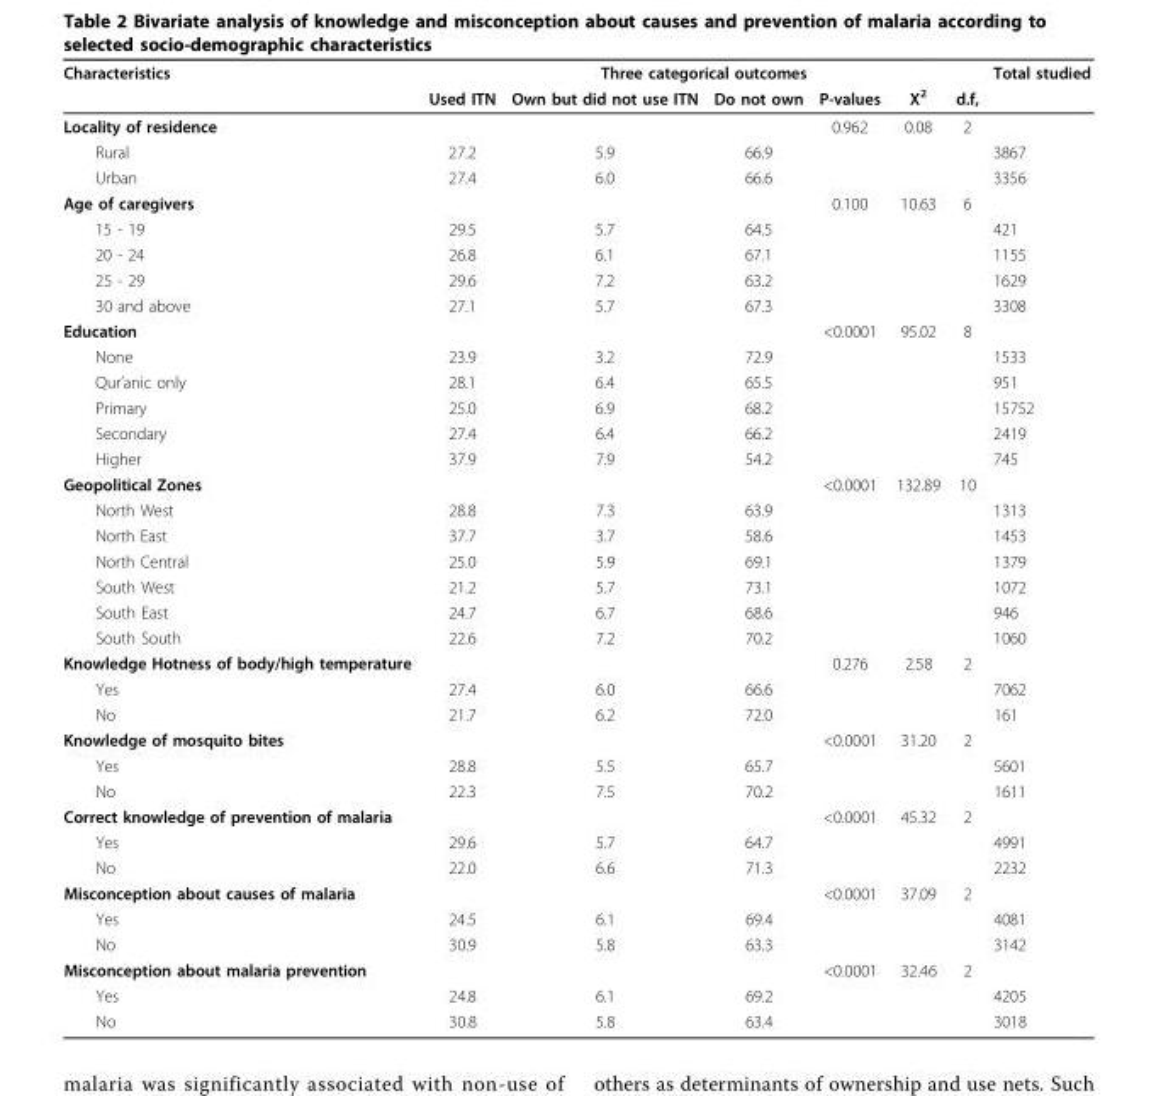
<table><thead><tr><td rowspan="2">Characteristics</td><td colspan="6">Three categorical outcomes</td><td rowspan="2">Total studied</td></tr><tr><td>Used ITN</td><td>Own but did not use ITN</td><td>Do not own</td><td>P-values</td><td>X<sup>2</sup></td><td>d.f,</td></tr></thead><tbody><tr><td>Locality of residence</td><td></td><td></td><td></td><td>0.962</td><td>0.08</td><td>2</td><td></td></tr><tr><td>Rural</td><td>27.2</td><td>5.9</td><td>66.9</td><td></td><td></td><td></td><td>3867</td></tr><tr><td>Urban</td><td>27.4</td><td>6.0</td><td>66.6</td><td></td><td></td><td></td><td>3356</td></tr><tr><td>Age of caregivers</td><td></td><td></td><td></td><td>0.100</td><td>10.63</td><td>6</td><td></td></tr><tr><td>15 - 19</td><td>29.5</td><td>5.7</td><td>64.5</td><td></td><td></td><td></td><td>421</td></tr><tr><td>20 - 24</td><td>26.8</td><td>6.1</td><td>67.1</td><td></td><td></td><td></td><td>1155</td></tr><tr><td>25 - 29</td><td>29.6</td><td>7.2</td><td>63.2</td><td></td><td></td><td></td><td>1629</td></tr><tr><td>30 and above</td><td>27.1</td><td>5.7</td><td>67.3</td><td></td><td></td><td></td><td>3308</td></tr><tr><td>Education</td><td></td><td></td><td></td><td>&lt;0.0001</td><td>95.02</td><td>8</td><td></td></tr><tr><td>None</td><td>23.9</td><td>3.2</td><td>72.9</td><td></td><td></td><td></td><td>1533</td></tr><tr><td>Qur’anic only</td><td>28.1</td><td>6.4</td><td>65.5</td><td></td><td></td><td></td><td>951</td></tr><tr><td>Primary</td><td>25.0</td><td>6.9</td><td>68.2</td><td></td><td></td><td></td><td>15752</td></tr><tr><td>Secondary</td><td>27.4</td><td>6.4</td><td>66.2</td><td></td><td></td><td></td><td>2419</td></tr><tr><td>Higher</td><td>37.9</td><td>7.9</td><td>54.2</td><td></td><td></td><td></td><td>745</td></tr><tr><td>Geopolitical Zones</td><td></td><td></td><td></td><td>&lt;0.0001</td><td>132.89</td><td>10</td><td></td></tr><tr><td>North West</td><td>28.8</td><td>7.3</td><td>63.9</td><td></td><td></td><td></td><td>1313</td></tr><tr><td>North East</td><td>37.7</td><td>3.7</td><td>58.6</td><td></td><td></td><td></td><td>1453</td></tr><tr><td>North Central</td><td>25.0</td><td>5.9</td><td>69.1</td><td></td><td></td><td></td><td>1379</td></tr><tr><td>South West</td><td>21.2</td><td>5.7</td><td>73.1</td><td></td><td></td><td></td><td>1072</td></tr><tr><td>South East</td><td>24.7</td><td>6.7</td><td>68.6</td><td></td><td></td><td></td><td>946</td></tr><tr><td>South South</td><td>22.6</td><td>7.2</td><td>70.2</td><td></td><td></td><td></td><td>1060</td></tr><tr><td>Knowledge Hotness of body/high temperature</td><td></td><td></td><td></td><td>0.276</td><td>2.58</td><td>2</td><td></td></tr><tr><td>Yes</td><td>27.4</td><td>6.0</td><td>66.6</td><td></td><td></td><td></td><td>7062</td></tr><tr><td>No</td><td>21.7</td><td>6.2</td><td>72.0</td><td></td><td></td><td></td><td>161</td></tr><tr><td>Knowledge of mosquito bites</td><td></td><td></td><td></td><td>&lt;0.0001</td><td>31.20</td><td>2</td><td></td></tr><tr><td>Yes</td><td>28.8</td><td>5.5</td><td>65.7</td><td></td><td></td><td></td><td>5601</td></tr><tr><td>No</td><td>22.3</td><td>7.5</td><td>70.2</td><td></td><td></td><td></td><td>1611</td></tr><tr><td>Correct knowledge of prevention of malaria</td><td></td><td></td><td></td><td>&lt;0.0001</td><td>45.32</td><td>2</td><td></td></tr><tr><td>Yes</td><td>29.6</td><td>5.7</td><td>64.7</td><td></td><td></td><td></td><td>4991</td></tr><tr><td>No</td><td>22.0</td><td>6.6</td><td>71.3</td><td></td><td></td><td></td><td>2232</td></tr><tr><td>Misconception about causes of malaria</td><td></td><td></td><td></td><td>&lt;0.0001</td><td>37.09</td><td>2</td><td></td></tr><tr><td>Yes</td><td>24.5</td><td>6.1</td><td>69.4</td><td></td><td></td><td></td><td>4081</td></tr><tr><td>No</td><td>30.9</td><td>5.8</td><td>63.3</td><td></td><td></td><td></td><td>3142</td></tr><tr><td>Misconception about malaria prevention</td><td></td><td></td><td></td><td>&lt;0.0001</td><td>32.46</td><td>2</td><td></td></tr><tr><td>Yes</td><td>24.8</td><td>6.1</td><td>69.2</td><td></td><td></td><td></td><td>4205</td></tr><tr><td>No</td><td>30.8</td><td>5.8</td><td>63.4</td><td></td><td></td><td></td><td>3018</td></tr></tbody></table>